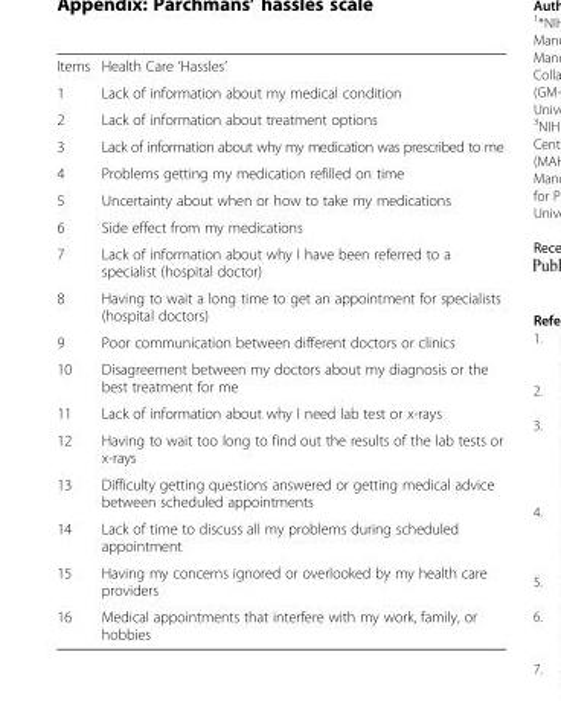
<table><tbody><tr><td>Items</td><td>Health Care ‘Hassles’</td></tr><tr><td>1</td><td>Lack of information about my medical condition</td></tr><tr><td>2</td><td>Lack of information about treatment options</td></tr><tr><td>3</td><td>Lack of information about why my medication was prescribed to me</td></tr><tr><td>4</td><td>Problems getting my medication refilled on time</td></tr><tr><td>5</td><td>Uncertainty about when or how to take my medications</td></tr><tr><td>6</td><td>Side effect from my medications</td></tr><tr><td>7</td><td>Lack of information about why I have been referred to a specialist (hospital doctor)</td></tr><tr><td>8</td><td>Having to wait a long time to get an appointment for specialists (hospital doctors)</td></tr><tr><td>9</td><td>Poor communication between different doctors or clinics</td></tr><tr><td>10</td><td>Disagreement between my doctors about my diagnosis or the best treatment for me</td></tr><tr><td>11</td><td>Lack of information about why I need lab test or x-rays</td></tr><tr><td>12</td><td>Having to wait too long to find out the results of the lab tests or x-rays</td></tr><tr><td>13</td><td>Difficulty getting questions answered or getting medical advice between scheduled appointments</td></tr><tr><td>14</td><td>Lack of time to discuss all my problems during scheduled appointment</td></tr><tr><td>15</td><td>Having my concerns ignored or overlooked by my health care providers</td></tr><tr><td>16</td><td>Medical appointments that interfere with my work, family, or hobbies</td></tr></tbody></table>